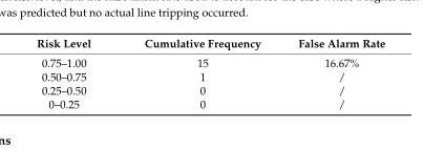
<table><thead><tr><td>Risk Level</td><td>Cumulative Frequency</td><td>False Alarm Rate</td></tr></thead><tbody><tr><td>0.75–1.00</td><td>15</td><td>16.67%</td></tr><tr><td>0.50–0.75</td><td>1</td><td>/</td></tr><tr><td>0.25–0.50</td><td>0</td><td>/</td></tr><tr><td>0–0.25</td><td>0</td><td>/</td></tr></tbody></table>